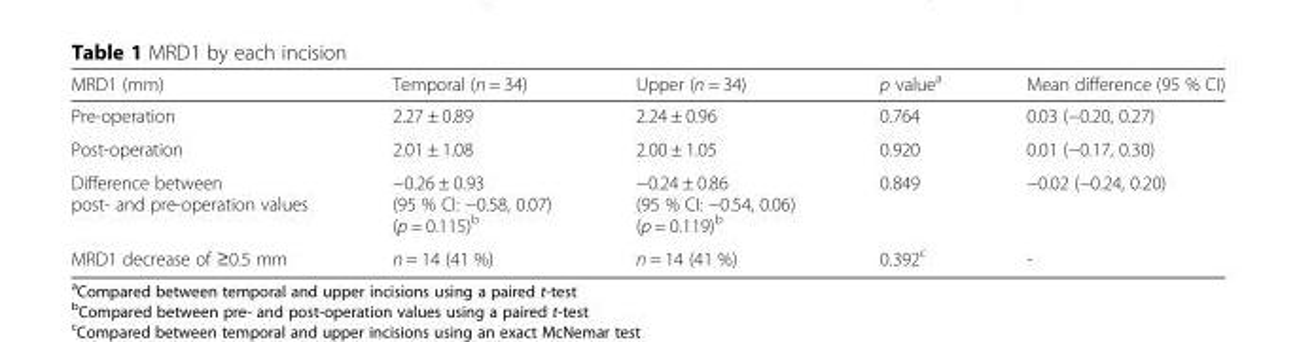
<table><thead><tr><td>MRD1 (mm)</td><td>Temporal (n = 34)</td><td>Upper (n = 34)</td><td>p value<sup>a</sup></td><td>Mean difference (95 % CI)</td></tr></thead><tbody><tr><td>Pre-operation</td><td>2.27 ± 0.89</td><td>2.24 ± 0.96</td><td>0.764</td><td>0.03 (−0.20, 0.27)</td></tr><tr><td>Post-operation</td><td>2.01 ± 1.08</td><td>2.00 ± 1.05</td><td>0.920</td><td>0.01 (−0.17, 0.30)</td></tr><tr><td>Difference between post- and pre-operation values</td><td>−0.26 ± 0.93 (95 % CI: −0.58, 0.07) (p = 0.115)<sup>b</sup></td><td>−0.24 ± 0.86 (95 % CI: −0.54, 0.06) (p = 0.119)<sup>b</sup></td><td>0.849</td><td>−0.02 (−0.24, 0.20)</td></tr><tr><td>MRD1 decrease of ≥0.5 mm</td><td>n = 14 (41 %)</td><td>n = 14 (41 %)</td><td>0.392<sup>c</sup></td><td>-</td></tr></tbody></table>